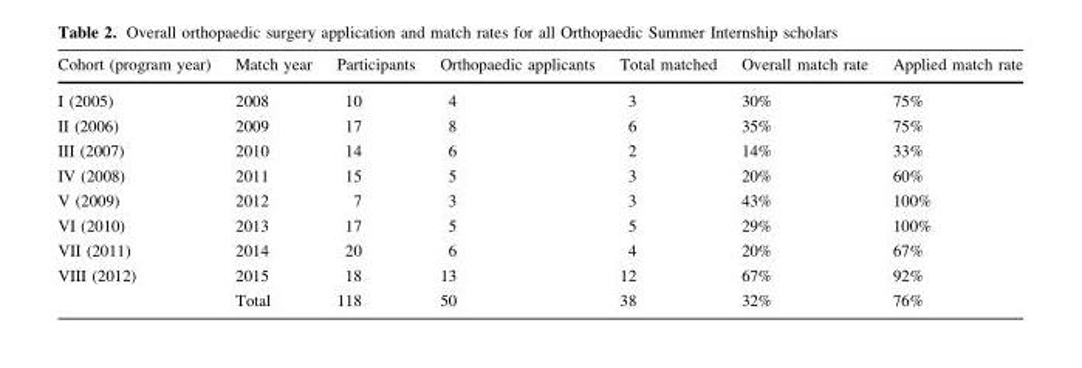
<table><thead><tr><td>Cohort (program year)</td><td>Match year</td><td>Participants</td><td>Orthopaedic applicants</td><td>Total matched</td><td>Overall match rate</td><td>Applied match rate</td></tr></thead><tbody><tr><td>I (2005)</td><td>2008</td><td>10</td><td>4</td><td>3</td><td>30%</td><td>75%</td></tr><tr><td>II (2006)</td><td>2009</td><td>17</td><td>8</td><td>6</td><td>35%</td><td>75%</td></tr><tr><td>III (2007)</td><td>2010</td><td>14</td><td>6</td><td>2</td><td>14%</td><td>33%</td></tr><tr><td>IV (2008)</td><td>2011</td><td>15</td><td>5</td><td>3</td><td>20%</td><td>60%</td></tr><tr><td>V (2009)</td><td>2012</td><td>7</td><td>3</td><td>3</td><td>43%</td><td>100%</td></tr><tr><td>VI (2010)</td><td>2013</td><td>17</td><td>5</td><td>5</td><td>29%</td><td>100%</td></tr><tr><td>VII (2011)</td><td>2014</td><td>20</td><td>6</td><td>4</td><td>20%</td><td>67%</td></tr><tr><td rowspan="2">VIII (2012)</td><td>2015</td><td>18</td><td>13</td><td>12</td><td>67%</td><td>92%</td></tr><tr><td>Total</td><td>118</td><td>50</td><td>38</td><td>32%</td><td>76%</td></tr></tbody></table>